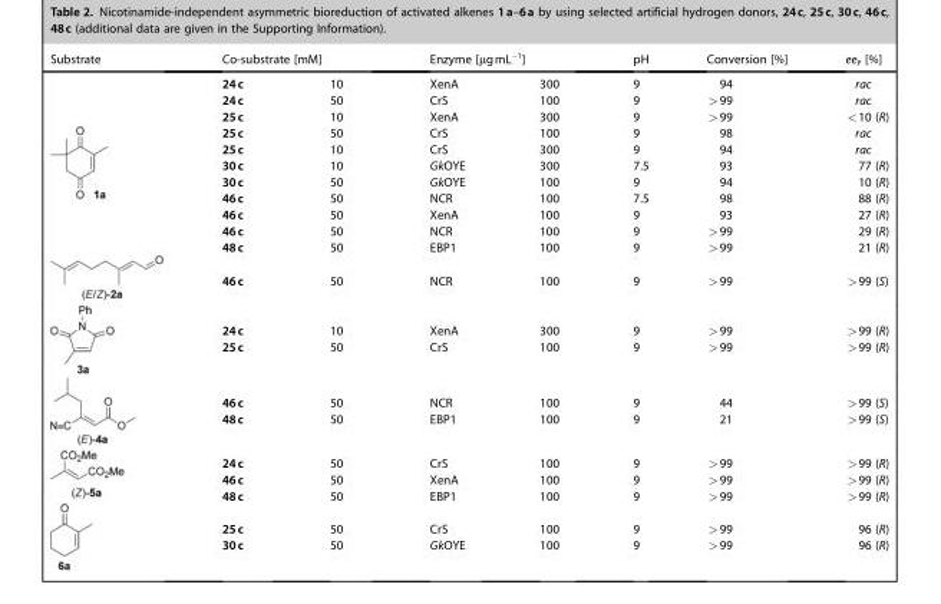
<table><thead><tr><td>Substrate</td><td>Co-substrate [mM]</td><td></td><td>Enzyme [μgmL<sup>−1</sup>]</td><td></td><td>pH</td><td>Conversion [%]</td><td>ee<sub>P</sub> [%]</td></tr></thead><tbody><tr><td rowspan="11"></td><td>24c</td><td>10</td><td>XenA</td><td>300</td><td>9</td><td>94</td><td>rac</td></tr><tr><td>24c</td><td>50</td><td>CrS</td><td>100</td><td>9</td><td>&gt;99</td><td>rac</td></tr><tr><td>25c</td><td>10</td><td>XenA</td><td>300</td><td>9</td><td>&gt;99</td><td>&lt;10 (R)</td></tr><tr><td>25c</td><td>50</td><td>CrS</td><td>100</td><td>9</td><td>98</td><td>rac</td></tr><tr><td>25c</td><td>10</td><td>CrS</td><td>300</td><td>9</td><td>94</td><td>rac</td></tr><tr><td>30c</td><td>10</td><td>GkOYE</td><td>300</td><td>7.5</td><td>93</td><td>77 (R)</td></tr><tr><td>30c</td><td>50</td><td>GkOYE</td><td>100</td><td>9</td><td>94</td><td>10 (R)</td></tr><tr><td>46c</td><td>50</td><td>NCR</td><td>100</td><td>7.5</td><td>98</td><td>88 (R)</td></tr><tr><td>46c</td><td>50</td><td>XenA</td><td>100</td><td>9</td><td>93</td><td>27 (R)</td></tr><tr><td>46c</td><td>50</td><td>NCR</td><td>100</td><td>9</td><td>&gt;99</td><td>29 (R)</td></tr><tr><td>48c</td><td>50</td><td>EBP1</td><td>100</td><td>9</td><td>&gt;99</td><td>21 (R)</td></tr><tr><td></td><td>46c</td><td>50</td><td>NCR</td><td>100</td><td>9</td><td>&gt;99</td><td>&gt;99 (S)</td></tr><tr><td rowspan="2"></td><td>24c</td><td>10</td><td>XenA</td><td>300</td><td>9</td><td>&gt;99</td><td>&gt;99 (R)</td></tr><tr><td>25c</td><td>50</td><td>CrS</td><td>100</td><td>9</td><td>&gt;99</td><td>&gt;99 (R)</td></tr><tr><td rowspan="2"></td><td>46c</td><td>50</td><td>NCR</td><td>100</td><td>9</td><td>44</td><td>&gt;99 (S)</td></tr><tr><td>48c</td><td>50</td><td>EBP1</td><td>100</td><td>9</td><td>21</td><td>&gt;99 (S)</td></tr><tr><td rowspan="3"></td><td>24c</td><td>50</td><td>CrS</td><td>100</td><td>9</td><td>&gt;99</td><td>&gt;99 (R)</td></tr><tr><td>46c</td><td>50</td><td>XenA</td><td>100</td><td>9</td><td>&gt;99</td><td>&gt;99 (R)</td></tr><tr><td>48c</td><td>50</td><td>EBP1</td><td>100</td><td>9</td><td>&gt;99</td><td>&gt;99 (R)</td></tr><tr><td rowspan="2"></td><td>25c</td><td>50</td><td>CrS</td><td>100</td><td>9</td><td>&gt;99</td><td>96 (R)</td></tr><tr><td>30c</td><td>50</td><td>GkOYE</td><td>100</td><td>9</td><td>&gt;99</td><td>96 (R)</td></tr></tbody></table>